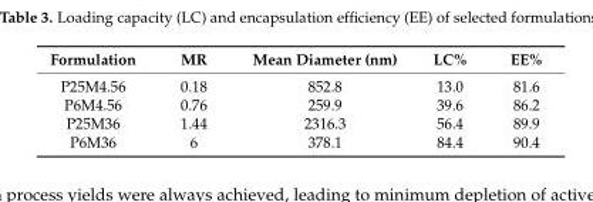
<table><thead><tr><td>Formulation</td><td>MR</td><td>Mean Diameter (nm)</td><td>LC%</td><td>EE%</td></tr></thead><tbody><tr><td>P25M4.56</td><td>0.18</td><td>852.8</td><td>13.0</td><td>81.6</td></tr><tr><td>P6M4.56</td><td>0.76</td><td>259.9</td><td>39.6</td><td>86.2</td></tr><tr><td>P25M36</td><td>1.44</td><td>2316.3</td><td>56.4</td><td>89.9</td></tr><tr><td>P6M36</td><td>6</td><td>378.1</td><td>84.4</td><td>90.4</td></tr></tbody></table>